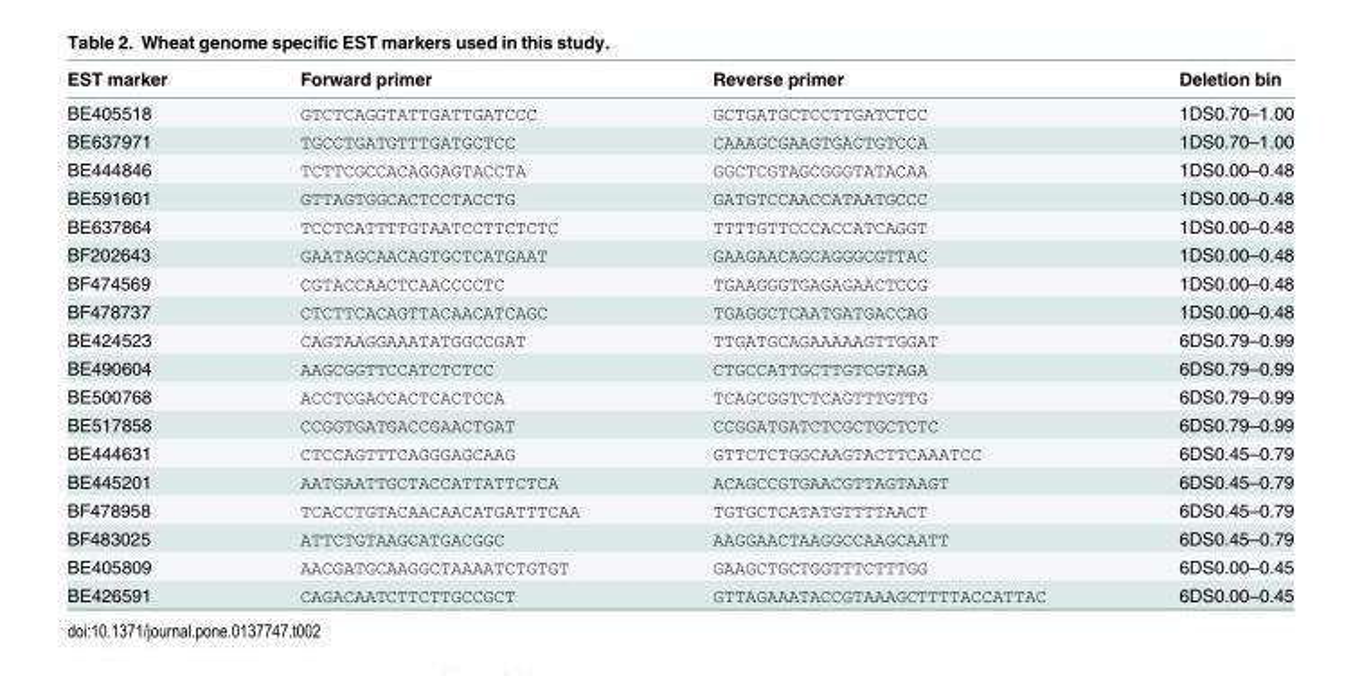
<table><thead><tr><td>EST marker</td><td>Forward primer</td><td>Reverse primer</td><td>Deletion bin</td></tr></thead><tbody><tr><td>BE405518</td><td>GTCTCAGGTATTGATTGATCCC</td><td>GCTGATGCTCCTTGATCTCC</td><td>1DS0.70–1.00</td></tr><tr><td>BE637971</td><td>TGCCTGATGTTTGATGCTCC</td><td>CAAAGCGAAGTGACTGTCCA</td><td>1DS0.70–1.00</td></tr><tr><td>BE444846</td><td>TCTTCGCCACAGGAGTACCTA</td><td>GGCTCGTAGCGGGTATACAA</td><td>1DS0.00–0.48</td></tr><tr><td>BE591601</td><td>GTTAGTGGCACTCCTACCTG</td><td>GATGTCCAACCATAATGCCC</td><td>1DS0.00–0.48</td></tr><tr><td>BE637864</td><td>TCCTCATTTTGTAATCCTTCTCTC</td><td>TTTTGTTCCCACCATCAGGT</td><td>1DS0.00–0.48</td></tr><tr><td>BF202643</td><td>GAATAGCAACAGTGCTCATGAAT</td><td>GAAGAACAGCAGGGCGTTAC</td><td>1DS0.00–0.48</td></tr><tr><td>BF474569</td><td>CGTACCAACTCAACCCCTC</td><td>TGAAGGGTGAGAGAACTCCG</td><td>1DS0.00–0.48</td></tr><tr><td>BF478737</td><td>CTCTTCACAGTTACAACATCAGC</td><td>TGAGGCTCAATGATGACCAG</td><td>1DS0.00–0.48</td></tr><tr><td>BE424523</td><td>CAGTAAGGAAATATGGCCGAT</td><td>TTGATGCAGAAAAAGTTGGAT</td><td>6DS0.79–0.99</td></tr><tr><td>BE490604</td><td>AAGCGGTTCCATCTCTCC</td><td>CTGCCATTGCTTGTCGTAGA</td><td>6DS0.79–0.99</td></tr><tr><td>BE500768</td><td>ACCTCGACCACTCACTCCA</td><td>TCAGCGGTCTCAGTTTGTTG</td><td>6DS0.79–0.99</td></tr><tr><td>BE517858</td><td>CCGGTGATGACCGAACTGAT</td><td>CCGGATGATCTCGCTGCTCTC</td><td>6DS0.79–0.99</td></tr><tr><td>BE444631</td><td>CTCCAGTTTCAGGGAGCAAG</td><td>GTTCTCTGGCAAGTACTTCAAATCC</td><td>6DS0.45–0.79</td></tr><tr><td>BE445201</td><td>AATGAATTGCTACCATTATTCTCA</td><td>ACAGCCGTGAACGTTAGTAAGT</td><td>6DS0.45–0.79</td></tr><tr><td>BF478958</td><td>TCACCTGTACAACAACATGATTTCAA</td><td>TGTGCTCATATGTTTTAACT</td><td>6DS0.45–0.79</td></tr><tr><td>BF483025</td><td>ATTCTGTAAGCATGACGGC</td><td>AAGGAACTAAGGCCAAGCAATT</td><td>6DS0.45–0.79</td></tr><tr><td>BE405809</td><td>AACGATGCAAGGCTAAAATCTGTGT</td><td>GAAGCTGCTGGTTTCTTTGG</td><td>6DS0.00–0.45</td></tr><tr><td>BE426591</td><td>CAGACAATCTTCTTGCCGCT</td><td>GTTAGAAATACCGTAAAGCTTTTACCATTAC</td><td>6DS0.00–0.45</td></tr></tbody></table>